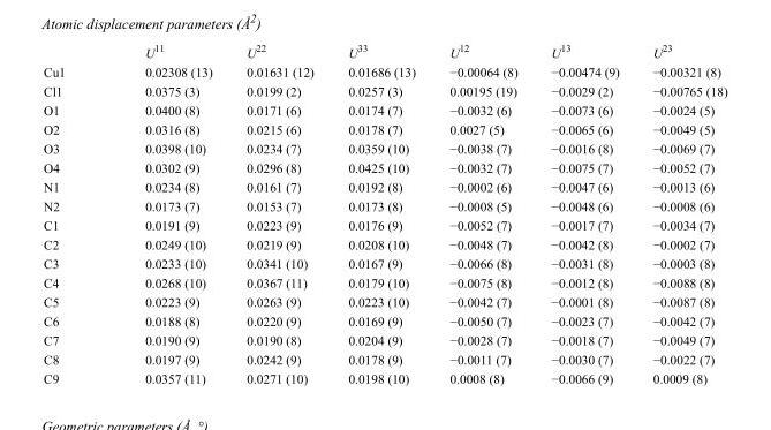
<table><thead><tr><td></td><td>U<sup>11</sup></td><td>U<sup>22</sup></td><td>U<sup>33</sup></td><td>U<sup>12</sup></td><td>U<sup>13</sup></td><td>U<sup>23</sup></td></tr></thead><tbody><tr><td>Cu1</td><td>0.02308 (13)</td><td>0.01631 (12)</td><td>0.01686 (13)</td><td>−0.00064 (8)</td><td>−0.00474 (9)</td><td>−0.00321 (8)</td></tr><tr><td>Cl1</td><td>0.0375 (3)</td><td>0.0199 (2)</td><td>0.0257 (3)</td><td>0.00195 (19)</td><td>−0.0029 (2)</td><td>−0.00765 (18)</td></tr><tr><td>O1</td><td>0.0400 (8)</td><td>0.0171 (6)</td><td>0.0174 (7)</td><td>−0.0032 (6)</td><td>−0.0073 (6)</td><td>−0.0024 (5)</td></tr><tr><td>O2</td><td>0.0316 (8)</td><td>0.0215 (6)</td><td>0.0178 (7)</td><td>0.0027 (5)</td><td>−0.0065 (6)</td><td>−0.0049 (5)</td></tr><tr><td>O3</td><td>0.0398 (10)</td><td>0.0234 (7)</td><td>0.0359 (10)</td><td>−0.0038 (7)</td><td>−0.0016 (8)</td><td>−0.0069 (7)</td></tr><tr><td>O4</td><td>0.0302 (9)</td><td>0.0296 (8)</td><td>0.0425 (10)</td><td>−0.0032 (7)</td><td>−0.0075 (7)</td><td>−0.0052 (7)</td></tr><tr><td>N1</td><td>0.0234 (8)</td><td>0.0161 (7)</td><td>0.0192 (8)</td><td>−0.0002 (6)</td><td>−0.0047 (6)</td><td>−0.0013 (6)</td></tr><tr><td>N2</td><td>0.0173 (7)</td><td>0.0153 (7)</td><td>0.0173 (8)</td><td>−0.0008 (5)</td><td>−0.0048 (6)</td><td>−0.0008 (6)</td></tr><tr><td>C1</td><td>0.0191 (9)</td><td>0.0223 (9)</td><td>0.0176 (9)</td><td>−0.0052 (7)</td><td>−0.0017 (7)</td><td>−0.0034 (7)</td></tr><tr><td>C2</td><td>0.0249 (10)</td><td>0.0219 (9)</td><td>0.0208 (10)</td><td>−0.0048 (7)</td><td>−0.0042 (8)</td><td>−0.0002 (7)</td></tr><tr><td>C3</td><td>0.0233 (10)</td><td>0.0341 (10)</td><td>0.0167 (9)</td><td>−0.0066 (8)</td><td>−0.0031 (8)</td><td>−0.0003 (8)</td></tr><tr><td>C4</td><td>0.0268 (10)</td><td>0.0367 (11)</td><td>0.0179 (10)</td><td>−0.0075 (8)</td><td>−0.0012 (8)</td><td>−0.0088 (8)</td></tr><tr><td>C5</td><td>0.0223 (9)</td><td>0.0263 (9)</td><td>0.0223 (10)</td><td>−0.0042 (7)</td><td>−0.0001 (8)</td><td>−0.0087 (8)</td></tr><tr><td>C6</td><td>0.0188 (8)</td><td>0.0220 (9)</td><td>0.0169 (9)</td><td>−0.0050 (7)</td><td>−0.0023 (7)</td><td>−0.0042 (7)</td></tr><tr><td>C7</td><td>0.0190 (9)</td><td>0.0190 (8)</td><td>0.0204 (9)</td><td>−0.0028 (7)</td><td>−0.0018 (7)</td><td>−0.0049 (7)</td></tr><tr><td>C8</td><td>0.0197 (9)</td><td>0.0242 (9)</td><td>0.0178 (9)</td><td>−0.0011 (7)</td><td>−0.0030 (7)</td><td>−0.0022 (7)</td></tr><tr><td>C9</td><td>0.0357 (11)</td><td>0.0271 (10)</td><td>0.0198 (10)</td><td>0.0008 (8)</td><td>−0.0066 (9)</td><td>0.0009 (8)</td></tr></tbody></table>